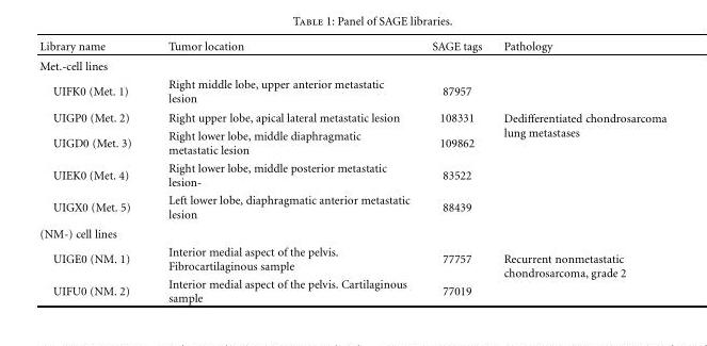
<table><thead><tr><td>Library name</td><td>Tumor location</td><td>SAGE tags</td><td>Pathology</td></tr></thead><tbody><tr><td colspan="4">Met.-cell lines</td></tr><tr><td>UIFK0 (Met. 1)</td><td>Right middle lobe, upper anterior metastatic lesion</td><td>87957</td><td rowspan="5">Dedifferentiated chondrosarcoma lung metastases</td></tr><tr><td>UIGP0 (Met. 2)</td><td>Right upper lobe, apical lateral metastatic lesion</td><td>108331</td></tr><tr><td>UIGD0 (Met. 3)</td><td>Right lower lobe, middle diaphragmatic metastatic lesion</td><td>109862</td></tr><tr><td>UIEK0 (Met. 4)</td><td>Right lower lobe, middle posterior metastatic lesion-</td><td>83522</td></tr><tr><td>UIGX0 (Met. 5)</td><td>Left lower lobe, diaphragmatic anterior metastatic lesion</td><td>88439</td></tr><tr><td colspan="4">(NM-) cell lines</td></tr><tr><td>UIGE0 (NM. 1)</td><td>Interior medial aspect of the pelvis. Fibrocartilaginous sample</td><td>77757</td><td rowspan="2">Recurrent nonmetastatic chondrosarcoma, grade 2</td></tr><tr><td>UIFU0 (NM. 2)</td><td>Interior medial aspect of the pelvis. Cartilaginous sample</td><td>77019</td></tr></tbody></table>